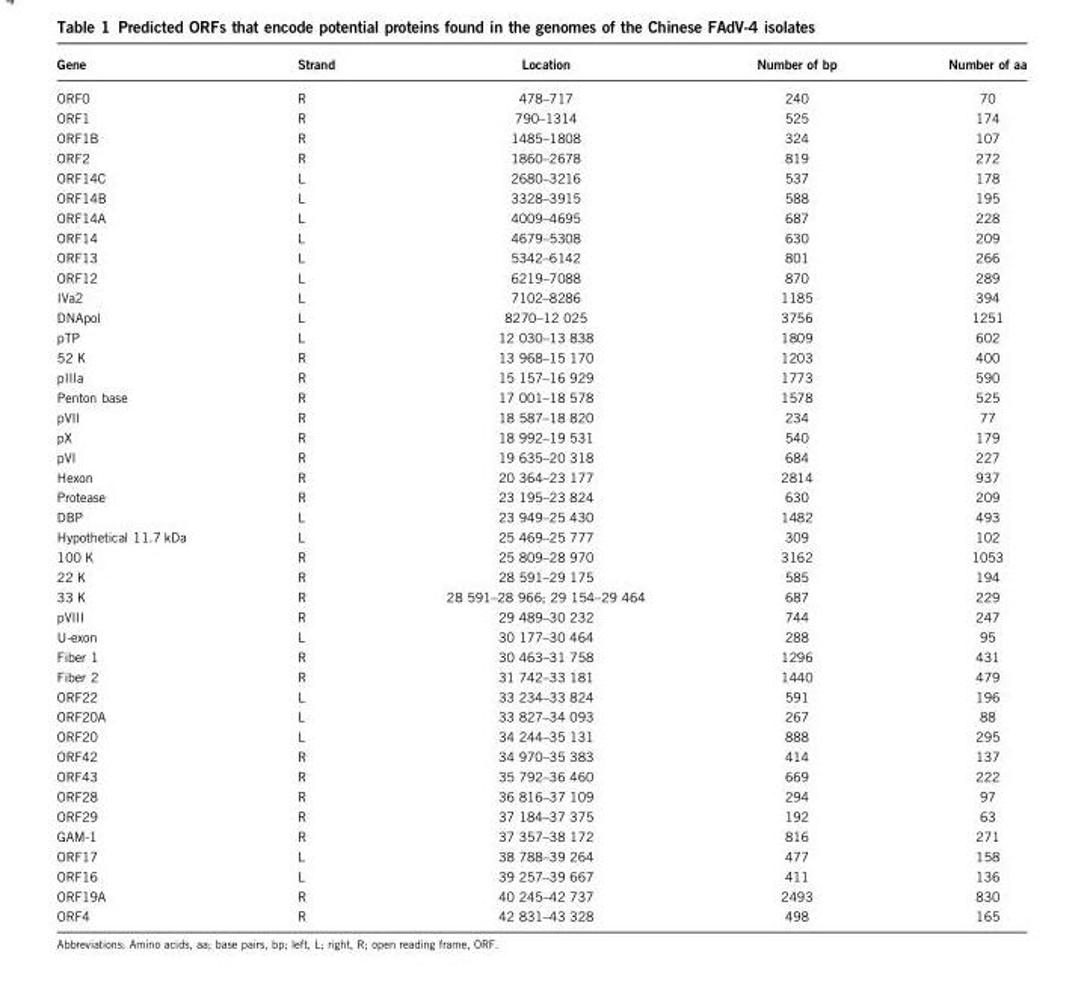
<table><thead><tr><td>Gene</td><td>Strand</td><td>Location</td><td>Number of bp</td><td>Number of aa</td></tr></thead><tbody><tr><td>ORF0</td><td>R</td><td>478–717</td><td>240</td><td>70</td></tr><tr><td>ORF1</td><td>R</td><td>790–1314</td><td>525</td><td>174</td></tr><tr><td>ORF1B</td><td>R</td><td>1485–1808</td><td>324</td><td>107</td></tr><tr><td>ORF2</td><td>R</td><td>1860–2678</td><td>819</td><td>272</td></tr><tr><td>ORF14C</td><td>L</td><td>2680–3216</td><td>537</td><td>178</td></tr><tr><td>ORF14B</td><td>L</td><td>3328–3915</td><td>588</td><td>195</td></tr><tr><td>ORF14A</td><td>L</td><td>4009–4695</td><td>687</td><td>228</td></tr><tr><td>ORF14</td><td>L</td><td>4679–5308</td><td>630</td><td>209</td></tr><tr><td>ORF13</td><td>L</td><td>5342–6142</td><td>801</td><td>266</td></tr><tr><td>ORF12</td><td>L</td><td>6219–7088</td><td>870</td><td>289</td></tr><tr><td>IVa2</td><td>L</td><td>7102–8286</td><td>1185</td><td>394</td></tr><tr><td>DNApol</td><td>L</td><td>8270–12 025</td><td>3756</td><td>1251</td></tr><tr><td>pTP</td><td>L</td><td>12 030–13 838</td><td>1809</td><td>602</td></tr><tr><td>52 K</td><td>R</td><td>13 968–15 170</td><td>1203</td><td>400</td></tr><tr><td>pIIIa</td><td>R</td><td>15 157–16 929</td><td>1773</td><td>590</td></tr><tr><td>Penton base</td><td>R</td><td>17 001–18 578</td><td>1578</td><td>525</td></tr><tr><td>pVII</td><td>R</td><td>18 587–18 820</td><td>234</td><td>77</td></tr><tr><td>pX</td><td>R</td><td>18 992–19 531</td><td>540</td><td>179</td></tr><tr><td>pVI</td><td>R</td><td>19 635–20 318</td><td>684</td><td>227</td></tr><tr><td>Hexon</td><td>R</td><td>20 364–23 177</td><td>2814</td><td>937</td></tr><tr><td>Protease</td><td>R</td><td>23 195–23 824</td><td>630</td><td>209</td></tr><tr><td>DBP</td><td>L</td><td>23 949–25 430</td><td>1482</td><td>493</td></tr><tr><td>Hypothetical 11.7 kDa</td><td>L</td><td>25 469–25 777</td><td>309</td><td>102</td></tr><tr><td>100 K</td><td>R</td><td>25 809–28 970</td><td>3162</td><td>1053</td></tr><tr><td>22 K</td><td>R</td><td>28 591–29 175</td><td>585</td><td>194</td></tr><tr><td>33 K</td><td>R</td><td>28 591–28 966; 29 154–29 464</td><td>687</td><td>229</td></tr><tr><td>pVIII</td><td>R</td><td>29 489–30 232</td><td>744</td><td>247</td></tr><tr><td>U-exon</td><td>L</td><td>30 177–30 464</td><td>288</td><td>95</td></tr><tr><td>Fiber 1</td><td>R</td><td>30 463–31 758</td><td>1296</td><td>431</td></tr><tr><td>Fiber 2</td><td>R</td><td>31 742–33 181</td><td>1440</td><td>479</td></tr><tr><td>ORF22</td><td>L</td><td>33 234–33 824</td><td>591</td><td>196</td></tr><tr><td>ORF20A</td><td>L</td><td>33 827–34 093</td><td>267</td><td>88</td></tr><tr><td>ORF20</td><td>L</td><td>34 244–35 131</td><td>888</td><td>295</td></tr><tr><td>ORF42</td><td>R</td><td>34 970–35 383</td><td>414</td><td>137</td></tr><tr><td>ORF43</td><td>R</td><td>35 792–36 460</td><td>669</td><td>222</td></tr><tr><td>ORF28</td><td>R</td><td>36 816–37 109</td><td>294</td><td>97</td></tr><tr><td>ORF29</td><td>R</td><td>37 184–37 375</td><td>192</td><td>63</td></tr><tr><td>GAM-1</td><td>R</td><td>37 357–38 172</td><td>816</td><td>271</td></tr><tr><td>ORF17</td><td>L</td><td>38 788–39 264</td><td>477</td><td>158</td></tr><tr><td>ORF16</td><td>L</td><td>39 257–39 667</td><td>411</td><td>136</td></tr><tr><td>ORF19A</td><td>R</td><td>40 245–42 737</td><td>2493</td><td>830</td></tr><tr><td>ORF4</td><td>R</td><td>42 831–43 328</td><td>498</td><td>165</td></tr></tbody></table>